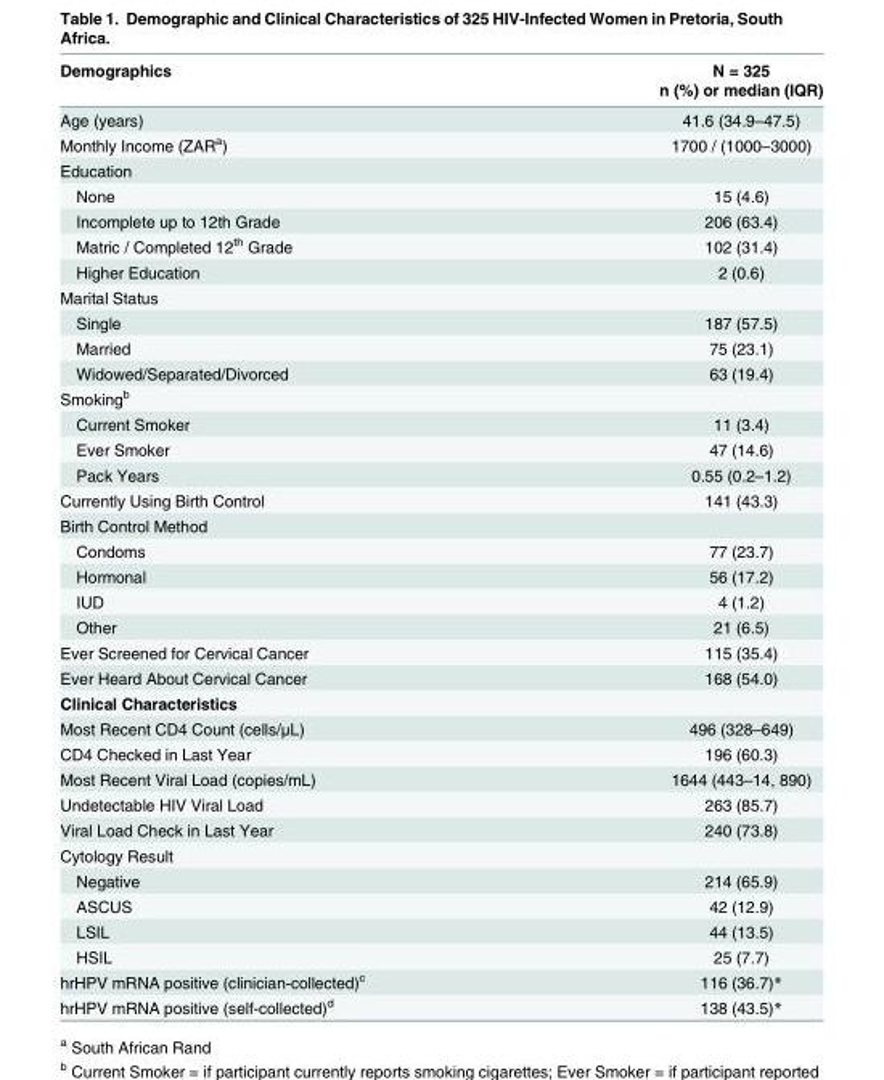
<table><thead><tr><td rowspan="2">Demographics</td><td rowspan="2">N = 325 n (%) or median (IQR)</td></tr><tr></tr></thead><tbody><tr><td>Age (years)</td><td>41.6 (34.9–47.5)</td></tr><tr><td>Monthly Income (ZAR<sup>a</sup>)</td><td>1700 / (1000–3000)</td></tr><tr><td colspan="2">Education</td></tr><tr><td>None</td><td>15 (4.6)</td></tr><tr><td>Incomplete up to 12th Grade</td><td>206 (63.4)</td></tr><tr><td>Matric / Completed 12<sup>th</sup> Grade</td><td>102 (31.4)</td></tr><tr><td>Higher Education</td><td>2 (0.6)</td></tr><tr><td colspan="2">Marital Status</td></tr><tr><td>Single</td><td>187 (57.5)</td></tr><tr><td>Married</td><td>75 (23.1)</td></tr><tr><td>Widowed/Separated/Divorced</td><td>63 (19.4)</td></tr><tr><td colspan="2">Smoking<sup>b</sup></td></tr><tr><td>Current Smoker</td><td>11 (3.4)</td></tr><tr><td>Ever Smoker</td><td>47 (14.6)</td></tr><tr><td>Pack Years</td><td>0.55 (0.2–1.2)</td></tr><tr><td>Currently Using Birth Control</td><td>141 (43.3)</td></tr><tr><td colspan="2">Birth Control Method</td></tr><tr><td>Condoms</td><td>77 (23.7)</td></tr><tr><td>Hormonal</td><td>56 (17.2)</td></tr><tr><td>IUD</td><td>4 (1.2)</td></tr><tr><td>Other</td><td>21 (6.5)</td></tr><tr><td>Ever Screened for Cervical Cancer</td><td>115 (35.4)</td></tr><tr><td>Ever Heard About Cervical Cancer</td><td>168 (54.0)</td></tr><tr><td colspan="2">Clinical Characteristics</td></tr><tr><td>Most Recent CD4 Count (cells/μL)</td><td>496 (328–649)</td></tr><tr><td>CD4 Checked in Last Year</td><td>196 (60.3)</td></tr><tr><td>Most Recent Viral Load (copies/mL)</td><td>1644 (443–14, 890)</td></tr><tr><td>Undetectable HIV Viral Load</td><td>263 (85.7)</td></tr><tr><td>Viral Load Check in Last Year</td><td>240 (73.8)</td></tr><tr><td colspan="2">Cytology Result</td></tr><tr><td>Negative</td><td>214 (65.9)</td></tr><tr><td>ASCUS</td><td>42 (12.9)</td></tr><tr><td>LSIL</td><td>44 (13.5)</td></tr><tr><td>HSIL</td><td>25 (7.7)</td></tr><tr><td>hrHPV mRNA positive (clinician-collected)<sup>c</sup></td><td>116 (36.7)*</td></tr><tr><td>hrHPV mRNA positive (self-collected)<sup>d</sup></td><td>138 (43.5)*</td></tr></tbody></table>